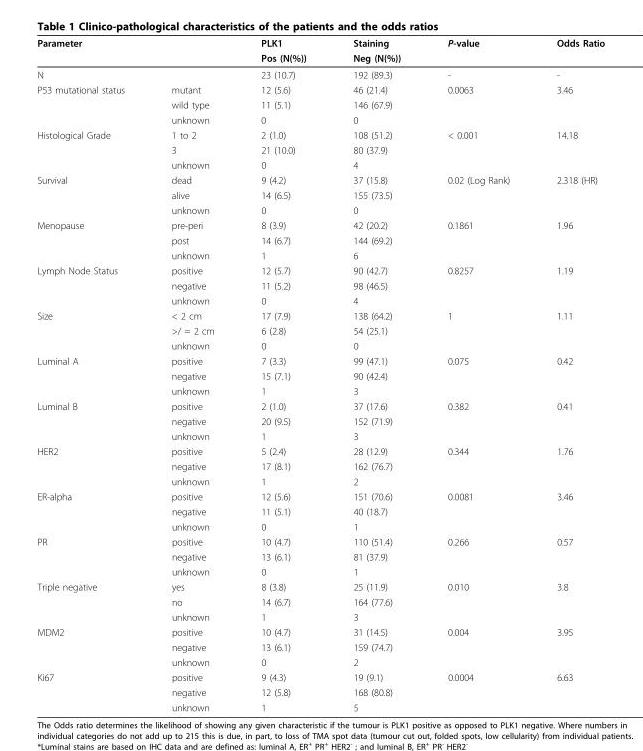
<table><thead><tr><td rowspan="2">Parameter</td><td rowspan="2"></td><td rowspan="2">PLK1 Pos (N(%))</td><td rowspan="2">Staining Neg (N(%))</td><td rowspan="2">P-value</td><td rowspan="2">Odds Ratio</td></tr><tr></tr></thead><tbody><tr><td>N</td><td></td><td>23 (10.7)</td><td>192 (89.3)</td><td>-</td><td>-</td></tr><tr><td rowspan="3">P53 mutational status</td><td>mutant</td><td>12 (5.6)</td><td>46 (21.4)</td><td>0.0063</td><td>3.46</td></tr><tr><td>wild type</td><td>11 (5.1)</td><td>146 (67.9)</td><td></td><td></td></tr><tr><td>unknown</td><td>0</td><td>0</td><td></td><td></td></tr><tr><td rowspan="3">Histological Grade</td><td>1 to 2</td><td>2 (1.0)</td><td>108 (51.2)</td><td>&lt; 0.001</td><td>14.18</td></tr><tr><td>3</td><td>21 (10.0)</td><td>80 (37.9)</td><td></td><td></td></tr><tr><td>unknown</td><td>0</td><td>4</td><td></td><td></td></tr><tr><td rowspan="3">Survival</td><td>dead</td><td>9 (4.2)</td><td>37 (15.8)</td><td>0.02 (Log Rank)</td><td>2.318 (HR)</td></tr><tr><td>alive</td><td>14 (6.5)</td><td>155 (73.5)</td><td></td><td></td></tr><tr><td>unknown</td><td>0</td><td>0</td><td></td><td></td></tr><tr><td rowspan="3">Menopause</td><td>pre-peri</td><td>8 (3.9)</td><td>42 (20.2)</td><td>0.1861</td><td>1.96</td></tr><tr><td>post</td><td>14 (6.7)</td><td>144 (69.2)</td><td></td><td></td></tr><tr><td>unknown</td><td>1</td><td>6</td><td></td><td></td></tr><tr><td rowspan="3">Lymph Node Status</td><td>positive</td><td>12 (5.7)</td><td>90 (42.7)</td><td>0.8257</td><td>1.19</td></tr><tr><td>negative</td><td>11 (5.2)</td><td>98 (46.5)</td><td></td><td></td></tr><tr><td>unknown</td><td>0</td><td>4</td><td></td><td></td></tr><tr><td rowspan="3">Size</td><td>&lt; 2 cm</td><td>17 (7.9)</td><td>138 (64.2)</td><td>1</td><td>1.11</td></tr><tr><td>&gt;/ = 2 cm</td><td>6 (2.8)</td><td>54 (25.1)</td><td></td><td></td></tr><tr><td>unknown</td><td>0</td><td>0</td><td></td><td></td></tr><tr><td rowspan="3">Luminal A</td><td>positive</td><td>7 (3.3)</td><td>99 (47.1)</td><td>0.075</td><td>0.42</td></tr><tr><td>negative</td><td>15 (7.1)</td><td>90 (42.4)</td><td></td><td></td></tr><tr><td>unknown</td><td>1</td><td>3</td><td></td><td></td></tr><tr><td rowspan="3">Luminal B</td><td>positive</td><td>2 (1.0)</td><td>37 (17.6)</td><td>0.382</td><td>0.41</td></tr><tr><td>negative</td><td>20 (9.5)</td><td>152 (71.9)</td><td></td><td></td></tr><tr><td>unknown</td><td>1</td><td>3</td><td></td><td></td></tr><tr><td rowspan="3">HER2</td><td>positive</td><td>5 (2.4)</td><td>28 (12.9)</td><td>0.344</td><td>1.76</td></tr><tr><td>negative</td><td>17 (8.1)</td><td>162 (76.7)</td><td></td><td></td></tr><tr><td>unknown</td><td>1</td><td>2</td><td></td><td></td></tr><tr><td rowspan="3">ER-alpha</td><td>positive</td><td>12 (5.6)</td><td>151 (70.6)</td><td>0.0081</td><td>3.46</td></tr><tr><td>negative</td><td>11 (5.1)</td><td>40 (18.7)</td><td></td><td></td></tr><tr><td>unknown</td><td>0</td><td>1</td><td></td><td></td></tr><tr><td rowspan="3">PR</td><td>positive</td><td>10 (4.7)</td><td>110 (51.4)</td><td>0.266</td><td>0.57</td></tr><tr><td>negative</td><td>13 (6.1)</td><td>81 (37.9)</td><td></td><td></td></tr><tr><td>unknown</td><td>0</td><td>1</td><td></td><td></td></tr><tr><td rowspan="3">Triple negative</td><td>yes</td><td>8 (3.8)</td><td>25 (11.9)</td><td>0.010</td><td>3.8</td></tr><tr><td>no</td><td>14 (6.7)</td><td>164 (77.6)</td><td></td><td></td></tr><tr><td>unknown</td><td>1</td><td>3</td><td></td><td></td></tr><tr><td rowspan="3">MDM2</td><td>positive</td><td>10 (4.7)</td><td>31 (14.5)</td><td>0.004</td><td>3.95</td></tr><tr><td>negative</td><td>13 (6.1)</td><td>159 (74.7)</td><td></td><td></td></tr><tr><td>unknown</td><td>0</td><td>2</td><td></td><td></td></tr><tr><td rowspan="3">Ki67</td><td>positive</td><td>9 (4.3)</td><td>19 (9.1)</td><td>0.0004</td><td>6.63</td></tr><tr><td>negative</td><td>12 (5.8)</td><td>168 (80.8)</td><td></td><td></td></tr><tr><td>unknown</td><td>1</td><td>5</td><td></td><td></td></tr></tbody></table>